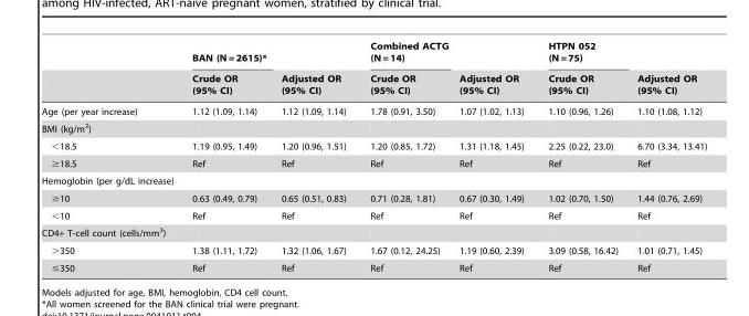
<table><thead><tr><td rowspan="2"></td><td rowspan="2">BAN (N = 2615)* Crude OR (95% CI)</td><td rowspan="2">Adjusted OR (95% CI)</td><td rowspan="2">Combined ACTG (N = 14) Crude OR (95% CI)</td><td rowspan="2">Adjusted OR (95% CI)</td><td rowspan="2">HTPN 052 (N = 75) Crude OR (95% CI)</td><td rowspan="2">Adjusted OR (95% CI)</td></tr><tr></tr></thead><tbody><tr><td>Age (per year increase)</td><td>1.12 (1.09, 1.14)</td><td>1.12 (1.09, 1.14)</td><td>1.78 (0.91, 3.50)</td><td>1.07 (1.02, 1.13)</td><td>1.10 (0.96, 1.26)</td><td>1.10 (1.08, 1.12)</td></tr><tr><td colspan="7">BMI (kg/m<sup>2</sup>)</td></tr><tr><td>&lt;18.5</td><td>1.19 (0.95, 1.49)</td><td>1.20 (0.96, 1.51)</td><td>1.20 (0.85, 1.72)</td><td>1.31 (1.18, 1.45)</td><td>2.25 (0.22, 23.0)</td><td>6.70 (3.34, 13.41)</td></tr><tr><td>≥18.5</td><td>Ref</td><td>Ref</td><td>Ref</td><td>Ref</td><td>Ref</td><td>Ref</td></tr><tr><td colspan="7">Hemoglobin (per g/dL increase)</td></tr><tr><td>≥10</td><td>0.63 (0.49, 0.79)</td><td>0.65 (0.51, 0.83)</td><td>0.71 (0.28, 1.81)</td><td>0.67 (0.30, 1.49)</td><td>1.02 (0.70, 1.50)</td><td>1.44 (0.76, 2.69)</td></tr><tr><td>&lt;10</td><td>Ref</td><td>Ref</td><td>Ref</td><td>Ref</td><td>Ref</td><td>Ref</td></tr><tr><td colspan="7">CD4+ T-cell count (cells/mm<sup>3</sup>)</td></tr><tr><td>&gt;350</td><td>1.38 (1.11, 1.72)</td><td>1.32 (1.06, 1.67)</td><td>1.67 (0.12, 24.25)</td><td>1.19 (0.60, 2.39)</td><td>3.09 (0.58, 16.42)</td><td>1.01 (0.71, 1.45)</td></tr><tr><td>≤350</td><td>Ref</td><td>Ref</td><td>Ref</td><td>Ref</td><td>Ref</td><td>Ref</td></tr></tbody></table>